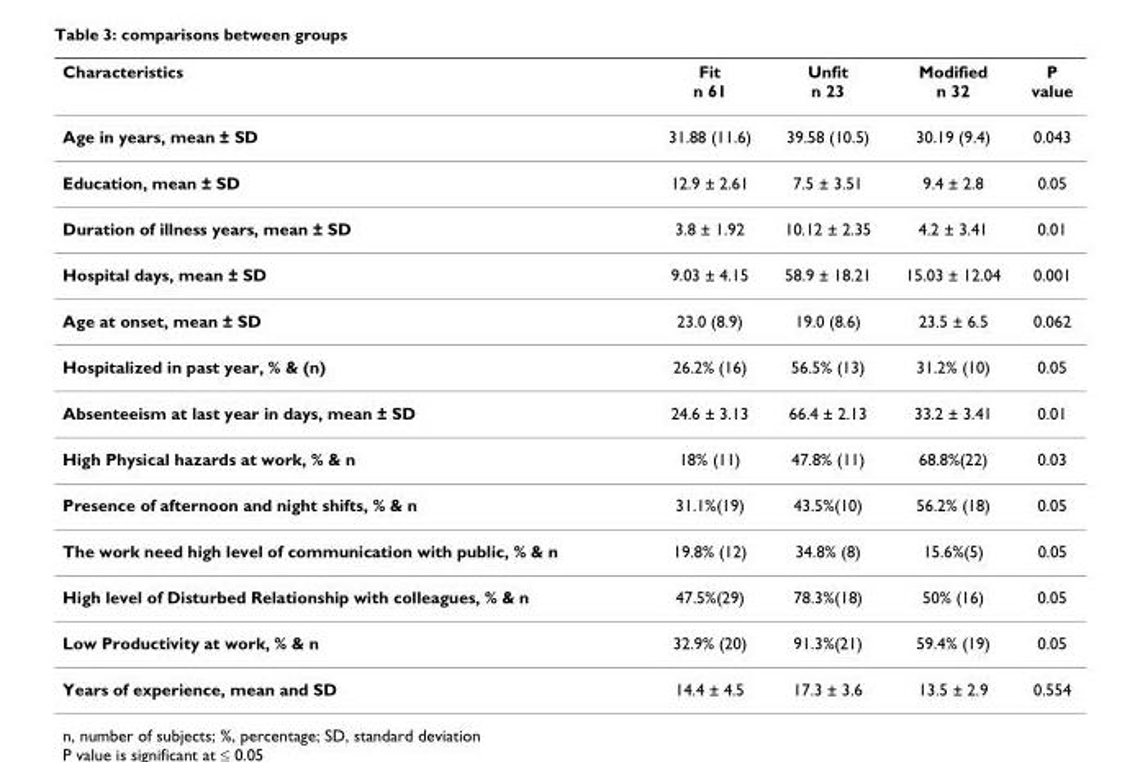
<table><thead><tr><td>Characteristics</td><td>Fit n 61</td><td>Unfit n 23</td><td>Modified n 32</td><td>P value</td></tr></thead><tbody><tr><td>Age in years, mean ± SD</td><td>31.88 (11.6)</td><td>39.58 (10.5)</td><td>30.19 (9.4)</td><td>0.043</td></tr><tr><td>Education, mean ± SD</td><td>12.9 ± 2.61</td><td>7.5 ± 3.51</td><td>9.4 ± 2.8</td><td>0.05</td></tr><tr><td>Duration of illness years, mean ± SD</td><td>3.8 ± 1.92</td><td>10.12 ± 2.35</td><td>4.2 ± 3.41</td><td>0.01</td></tr><tr><td>Hospital days, mean ± SD</td><td>9.03 ± 4.15</td><td>58.9 ± 18.21</td><td>15.03 ± 12.04</td><td>0.001</td></tr><tr><td>Age at onset, mean ± SD</td><td>23.0 (8.9)</td><td>19.0 (8.6)</td><td>23.5 ± 6.5</td><td>0.062</td></tr><tr><td>Hospitalized in past year, % &amp; (n)</td><td>26.2% (16)</td><td>56.5% (13)</td><td>31.2% (10)</td><td>0.05</td></tr><tr><td>Absenteeism at last year in days, mean ± SD</td><td>24.6 ± 3.13</td><td>66.4 ± 2.13</td><td>33.2 ± 3.41</td><td>0.01</td></tr><tr><td>High Physical hazards at work, % &amp; n</td><td>18% (11)</td><td>47.8% (11)</td><td>68.8%(22)</td><td>0.03</td></tr><tr><td>Presence of afternoon and night shifts, % &amp; n</td><td>31.1%(19)</td><td>43.5%(10)</td><td>56.2% (18)</td><td>0.05</td></tr><tr><td>The work need high level of communication with public, % &amp; n</td><td>19.8% (12)</td><td>34.8% (8)</td><td>15.6%(5)</td><td>0.05</td></tr><tr><td>High level of Disturbed Relationship with colleagues, % &amp; n</td><td>47.5%(29)</td><td>78.3%(18)</td><td>50% (16)</td><td>0.05</td></tr><tr><td>Low Productivity at work, % &amp; n</td><td>32.9% (20)</td><td>91.3%(21)</td><td>59.4% (19)</td><td>0.05</td></tr><tr><td>Years of experience, mean and SD</td><td>14.4 ± 4.5</td><td>17.3 ± 3.6</td><td>13.5 ± 2.9</td><td>0.554</td></tr></tbody></table>